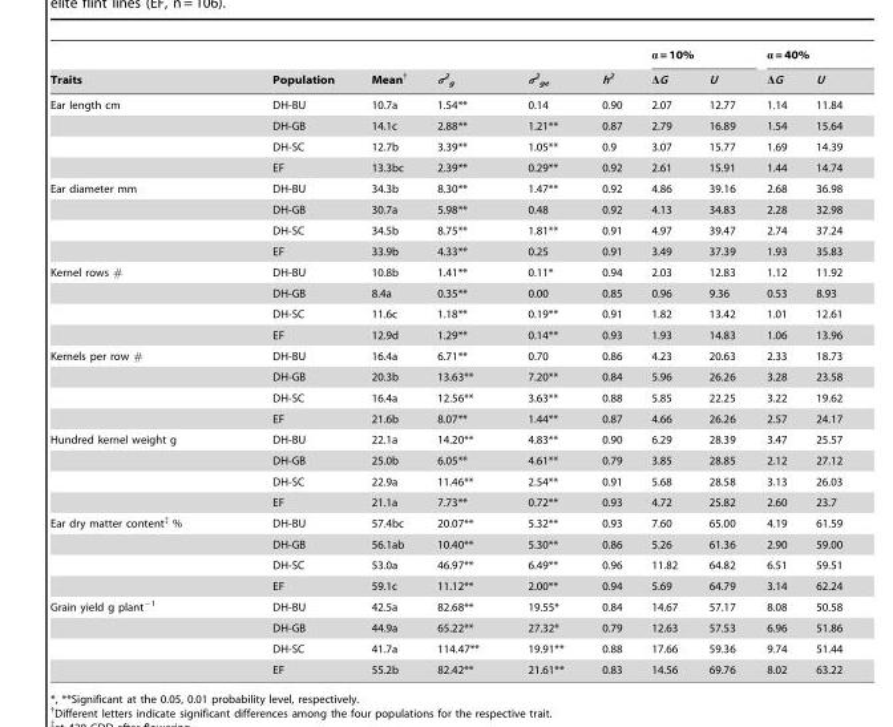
<table><thead><tr><td rowspan="2">Traits</td><td rowspan="2">Population</td><td rowspan="2">Mean†</td><td rowspan="2">σ<sup>2</sup> <sub>g</sub></td><td rowspan="2">σ<sup>2</sup> <sub>ge</sub></td><td rowspan="2">h<sup>2</sup></td><td colspan="2">α = 10%</td><td colspan="2">α = 40%</td></tr><tr><td>ΔG</td><td>U</td><td>ΔG</td><td>U</td></tr></thead><tbody><tr><td rowspan="4">Ear length cm</td><td>DH-BU</td><td>10.7a</td><td>1.54**</td><td>0.14</td><td>0.90</td><td>2.07</td><td>12.77</td><td>1.14</td><td>11.84</td></tr><tr><td>DH-GB</td><td>14.1c</td><td>2.88**</td><td>1.21**</td><td>0.87</td><td>2.79</td><td>16.89</td><td>1.54</td><td>15.64</td></tr><tr><td>DH-SC</td><td>12.7b</td><td>3.39**</td><td>1.05**</td><td>0.9</td><td>3.07</td><td>15.77</td><td>1.69</td><td>14.39</td></tr><tr><td>EF</td><td>13.3bc</td><td>2.39**</td><td>0.29**</td><td>0.92</td><td>2.61</td><td>15.91</td><td>1.44</td><td>14.74</td></tr><tr><td rowspan="4">Ear diameter mm</td><td>DH-BU</td><td>34.3b</td><td>8.30**</td><td>1.47**</td><td>0.92</td><td>4.86</td><td>39.16</td><td>2.68</td><td>36.98</td></tr><tr><td>DH-GB</td><td>30.7a</td><td>5.98**</td><td>0.48</td><td>0.92</td><td>4.13</td><td>34.83</td><td>2.28</td><td>32.98</td></tr><tr><td>DH-SC</td><td>34.5b</td><td>8.75**</td><td>1.81**</td><td>0.91</td><td>4.97</td><td>39.47</td><td>2.74</td><td>37.24</td></tr><tr><td>EF</td><td>33.9b</td><td>4.33**</td><td>0.25</td><td>0.91</td><td>3.49</td><td>37.39</td><td>1.93</td><td>35.83</td></tr><tr><td rowspan="4">Kernel rows #</td><td>DH-BU</td><td>10.8b</td><td>1.41**</td><td>0.11*</td><td>0.94</td><td>2.03</td><td>12.83</td><td>1.12</td><td>11.92</td></tr><tr><td>DH-GB</td><td>8.4a</td><td>0.35**</td><td>0.00</td><td>0.85</td><td>0.96</td><td>9.36</td><td>0.53</td><td>8.93</td></tr><tr><td>DH-SC</td><td>11.6c</td><td>1.18**</td><td>0.19**</td><td>0.91</td><td>1.82</td><td>13.42</td><td>1.01</td><td>12.61</td></tr><tr><td>EF</td><td>12.9d</td><td>1.29**</td><td>0.14**</td><td>0.93</td><td>1.93</td><td>14.83</td><td>1.06</td><td>13.96</td></tr><tr><td rowspan="4">Kernels per row #</td><td>DH-BU</td><td>16.4a</td><td>6.71**</td><td>0.70</td><td>0.86</td><td>4.23</td><td>20.63</td><td>2.33</td><td>18.73</td></tr><tr><td>DH-GB</td><td>20.3b</td><td>13.63**</td><td>7.20**</td><td>0.84</td><td>5.96</td><td>26.26</td><td>3.28</td><td>23.58</td></tr><tr><td>DH-SC</td><td>16.4a</td><td>12.56**</td><td>3.63**</td><td>0.88</td><td>5.85</td><td>22.25</td><td>3.22</td><td>19.62</td></tr><tr><td>EF</td><td>21.6b</td><td>8.07**</td><td>1.44**</td><td>0.87</td><td>4.66</td><td>26.26</td><td>2.57</td><td>24.17</td></tr><tr><td rowspan="4">Hundred kernel weight g</td><td>DH-BU</td><td>22.1a</td><td>14.20**</td><td>4.83**</td><td>0.90</td><td>6.29</td><td>28.39</td><td>3.47</td><td>25.57</td></tr><tr><td>DH-GB</td><td>25.0b</td><td>6.05**</td><td>4.61**</td><td>0.79</td><td>3.85</td><td>28.85</td><td>2.12</td><td>27.12</td></tr><tr><td>DH-SC</td><td>22.9a</td><td>11.46**</td><td>2.54**</td><td>0.91</td><td>5.68</td><td>28.58</td><td>3.13</td><td>26.03</td></tr><tr><td>EF</td><td>21.1a</td><td>7.73**</td><td>0.72**</td><td>0.93</td><td>4.72</td><td>25.82</td><td>2.60</td><td>23.7</td></tr><tr><td rowspan="4">Ear dry matter content‡ %</td><td>DH-BU</td><td>57.4bc</td><td>20.07**</td><td>5.32**</td><td>0.93</td><td>7.60</td><td>65.00</td><td>4.19</td><td>61.59</td></tr><tr><td>DH-GB</td><td>56.1ab</td><td>10.40**</td><td>5.30**</td><td>0.86</td><td>5.26</td><td>61.36</td><td>2.90</td><td>59.00</td></tr><tr><td>DH-SC</td><td>53.0a</td><td>46.97**</td><td>6.49**</td><td>0.96</td><td>11.82</td><td>64.82</td><td>6.51</td><td>59.51</td></tr><tr><td>EF</td><td>59.1c</td><td>11.12**</td><td>2.00**</td><td>0.94</td><td>5.69</td><td>64.79</td><td>3.14</td><td>62.24</td></tr><tr><td rowspan="4">Grain yield g plant<sup>−1</sup></td><td>DH-BU</td><td>42.5a</td><td>82.68**</td><td>19.55*</td><td>0.84</td><td>14.67</td><td>57.17</td><td>8.08</td><td>50.58</td></tr><tr><td>DH-GB</td><td>44.9a</td><td>65.22**</td><td>27.32*</td><td>0.79</td><td>12.63</td><td>57.53</td><td>6.96</td><td>51.86</td></tr><tr><td>DH-SC</td><td>41.7a</td><td>114.47**</td><td>19.91**</td><td>0.88</td><td>17.66</td><td>59.36</td><td>9.74</td><td>51.44</td></tr><tr><td>EF</td><td>55.2b</td><td>82.42**</td><td>21.61**</td><td>0.83</td><td>14.56</td><td>69.76</td><td>8.02</td><td>63.22</td></tr></tbody></table>